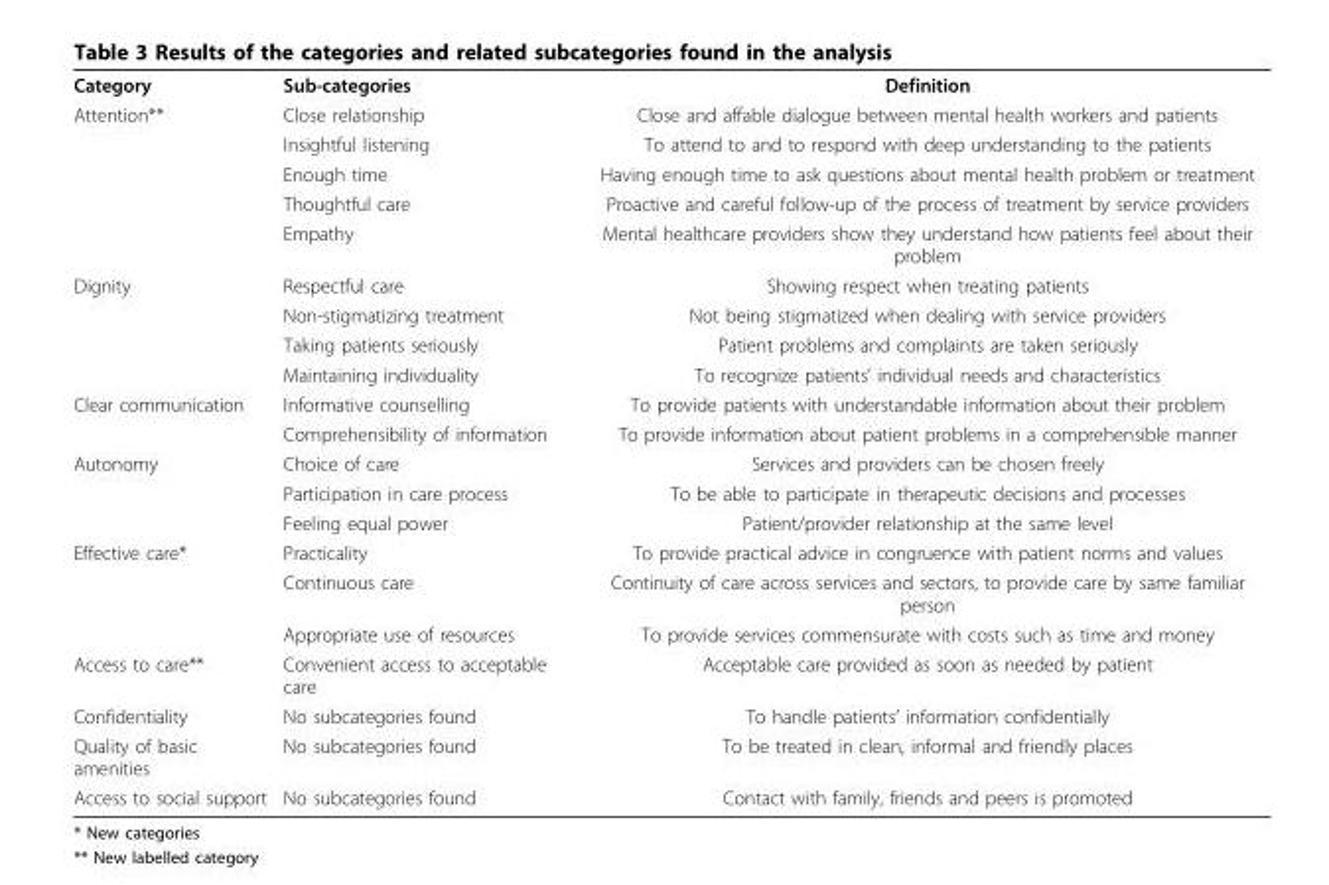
<table><tbody><tr><td>Category</td><td>Sub-categories</td><td>Definition</td></tr><tr><td rowspan="5">Attention**</td><td>Close relationship</td><td>Close and affable dialogue between mental health workers and patients</td></tr><tr><td>Insightful listening</td><td>To attend to and to respond with deep understanding to the patients</td></tr><tr><td>Enough time</td><td>Having enough time to ask questions about mental health problem or treatment</td></tr><tr><td>Thoughtful care</td><td>Proactive and careful follow-up of the process of treatment by service providers</td></tr><tr><td>Empathy</td><td>Mental healthcare providers show they understand how patients feel about their problem</td></tr><tr><td rowspan="4">Dignity</td><td>Respectful care</td><td>Showing respect when treating patients</td></tr><tr><td>Non-stigmatizing treatment</td><td>Not being stigmatized when dealing with service providers</td></tr><tr><td>Taking patients seriously</td><td>Patient problems and complaints are taken seriously</td></tr><tr><td>Maintaining individuality</td><td>To recognize patients’ individual needs and characteristics</td></tr><tr><td rowspan="2">Clear communication</td><td>Informative counselling</td><td>To provide patients with understandable information about their problem</td></tr><tr><td>Comprehensibility of information</td><td>To provide information about patient problems in a comprehensible manner</td></tr><tr><td rowspan="3">Autonomy</td><td>Choice of care</td><td>Services and providers can be chosen freely</td></tr><tr><td>Participation in care process</td><td>To be able to participate in therapeutic decisions and processes</td></tr><tr><td>Feeling equal power</td><td>Patient/provider relationship at the same level</td></tr><tr><td rowspan="3">Effective care*</td><td>Practicality</td><td>To provide practical advice in congruence with patient norms and values</td></tr><tr><td>Continuous care</td><td>Continuity of care across services and sectors, to provide care by same familiar person</td></tr><tr><td>Appropriate use of resources</td><td>To provide services commensurate with costs such as time and money</td></tr><tr><td>Access to care**</td><td>Convenient access to acceptable care</td><td>Acceptable care provided as soon as needed by patient</td></tr><tr><td>Confidentiality</td><td>No subcategories found</td><td>To handle patients’ information confidentially</td></tr><tr><td>Quality of basic amenities</td><td>No subcategories found</td><td>To be treated in clean, informal and friendly places</td></tr><tr><td>Access to social support</td><td>No subcategories found</td><td>Contact with family, friends and peers is promoted</td></tr></tbody></table>